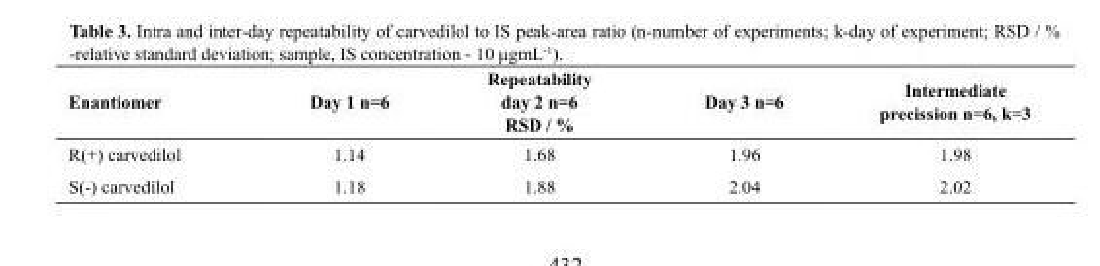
<table><thead><tr><td>Enantiomer</td><td>Day 1 n=6</td><td>Repeatability day 2 n=6 RSD / %</td><td>Day 3 n=6</td><td>Intermediate precission n=6, k=3</td></tr></thead><tbody><tr><td>R(+) carvedilol</td><td>1.14</td><td>1.68</td><td>1.96</td><td>1.98</td></tr><tr><td>S(-) carvedilol</td><td>1.18</td><td>1.88</td><td>2.04</td><td>2.02</td></tr></tbody></table>